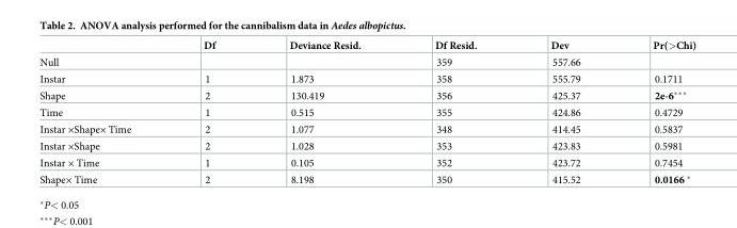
<table><thead><tr><td></td><td>Df</td><td>Deviance Resid.</td><td>Df Resid.</td><td>Dev</td><td>Pr(&gt;Chi)</td></tr></thead><tbody><tr><td>Null</td><td></td><td></td><td>359</td><td>557.66</td><td></td></tr><tr><td>Instar</td><td>1</td><td>1.873</td><td>358</td><td>555.79</td><td>0.1711</td></tr><tr><td>Shape</td><td>2</td><td>130.419</td><td>356</td><td>425.37</td><td>2e-6***</td></tr><tr><td>Time</td><td>1</td><td>0.515</td><td>355</td><td>424.86</td><td>0.4729</td></tr><tr><td>Instar ×Shape× Time</td><td>2</td><td>1.077</td><td>348</td><td>414.45</td><td>0.5837</td></tr><tr><td>Instar ×Shape</td><td>2</td><td>1.028</td><td>353</td><td>423.83</td><td>0.5981</td></tr><tr><td>Instar × Time</td><td>1</td><td>0.105</td><td>352</td><td>423.72</td><td>0.7454</td></tr><tr><td>Shape× Time</td><td>2</td><td>8.198</td><td>350</td><td>415.52</td><td>0.0166 *</td></tr></tbody></table>